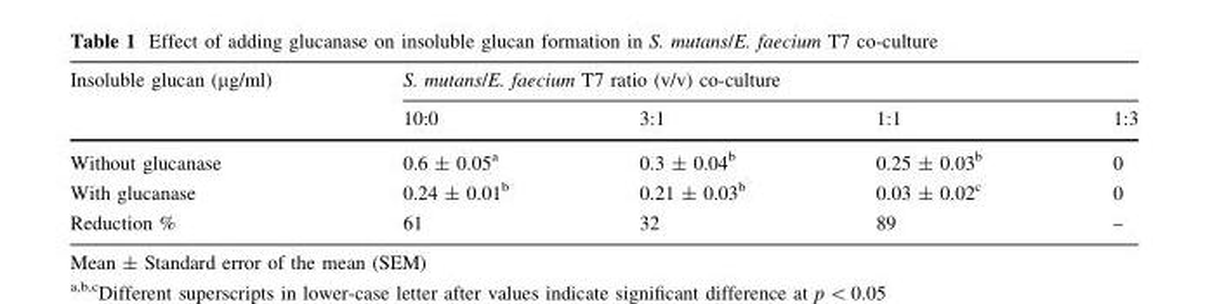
<table><thead><tr><td rowspan="2">Insoluble glucan (μg/ml)</td><td colspan="4">S. mutans/E. faecium T7 ratio (v/v) co-culture</td></tr><tr><td>10:0</td><td>3:1</td><td>1:1</td><td>1:3</td></tr></thead><tbody><tr><td>Without glucanase</td><td>0.6 ± 0.05<sup>a</sup></td><td>0.3 ± 0.04<sup>b</sup></td><td>0.25 ± 0.03<sup>b</sup></td><td>0</td></tr><tr><td>With glucanase</td><td>0.24 ± 0.01<sup>b</sup></td><td>0.21 ± 0.03<sup>b</sup></td><td>0.03 ± 0.02<sup>c</sup></td><td>0</td></tr><tr><td>Reduction %</td><td>61</td><td>32</td><td>89</td><td>–</td></tr></tbody></table>